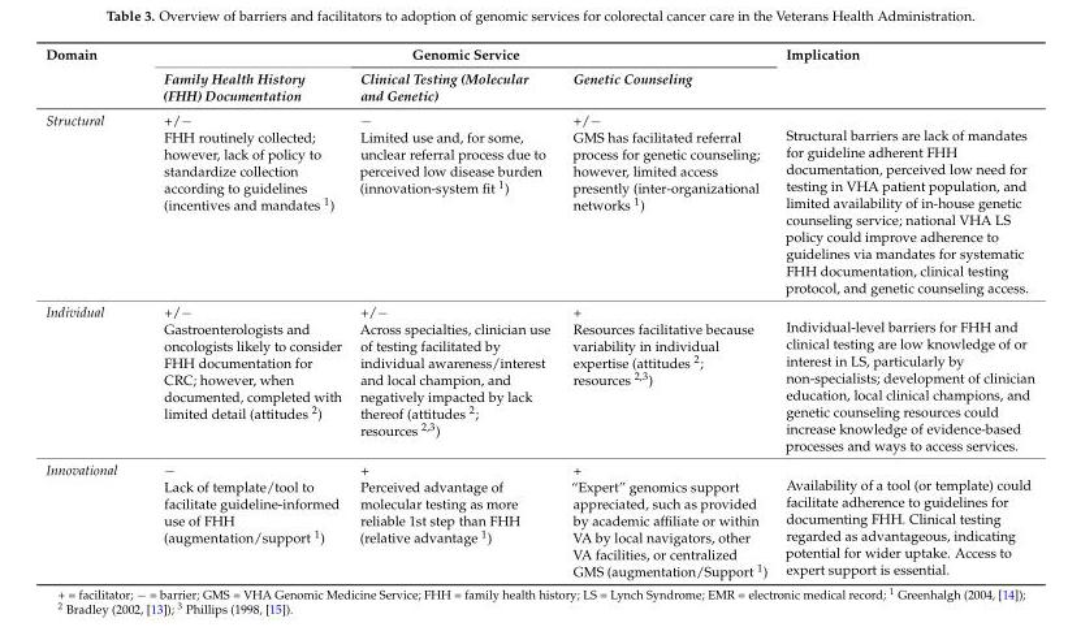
<table><thead><tr><td rowspan="2">Domain</td><td colspan="3">Genomic Service</td><td rowspan="2">Implication</td></tr><tr><td>Family Health History (FHH) Documentation</td><td>Clinical Testing (Molecular and Genetic)</td><td>Genetic Counseling</td></tr></thead><tbody><tr><td>Structural</td><td>+/− FHH routinely collected; however, lack of policy to standardize collection according to guidelines (incentives and mandates <sup>1</sup>)</td><td>− Limited use and, for some, unclear referral process due to perceived low disease burden (innovation-system fit <sup>1</sup>)</td><td>+/− GMS has facilitated referral process for genetic counseling; however, limited access presently (inter-organizational networks <sup>1</sup>)</td><td>Structural barriers are lack of mandates for guideline adherent FHH documentation, perceived low need for testing in VHA patient population, and limited availability of in-house genetic counseling service; national VHA LS policy could improve adherence to guidelines via mandates for systematic FHH documentation, clinical testing protocol, and genetic counseling access.</td></tr><tr><td>Individual</td><td>+/− Gastroenterologists and oncologists likely to consider FHH documentation for CRC; however, when documented, completed with limited detail (attitudes <sup>2</sup>)</td><td>+/− Across specialties, clinician use of testing facilitated by individual awareness/interest and local champion, and negatively impacted by lack thereof (attitudes <sup>2</sup>; resources <sup>2,3</sup>)</td><td>+ Resources facilitative because variability in individual expertise (attitudes <sup>2</sup>; resources <sup>2,3</sup>)</td><td>Individual-level barriers for FHH and clinical testing are low knowledge of or interest in LS, particularly by non-specialists; development of clinician education, local clinical champions, and genetic counseling resources could increase knowledge of evidence-based processes and ways to access services.</td></tr><tr><td>Innovational</td><td>− Lack of template/tool to facilitate guideline-informed use of FHH (augmentation/support <sup>1</sup>)</td><td>+ Perceived advantage of molecular testing as more reliable 1st step than FHH (relative advantage <sup>1</sup>)</td><td>+ “Expert” genomics support appreciated, such as provided by academic affiliate or within VA by local navigators, other VA facilities, or centralized GMS (augmentation/Support <sup>1</sup>)</td><td>Availability of a tool (or template) could facilitate adherence to guidelines for documenting FHH. Clinical testing regarded as advantageous, indicating potential for wider uptake. Access to expert support is essential.</td></tr></tbody></table>